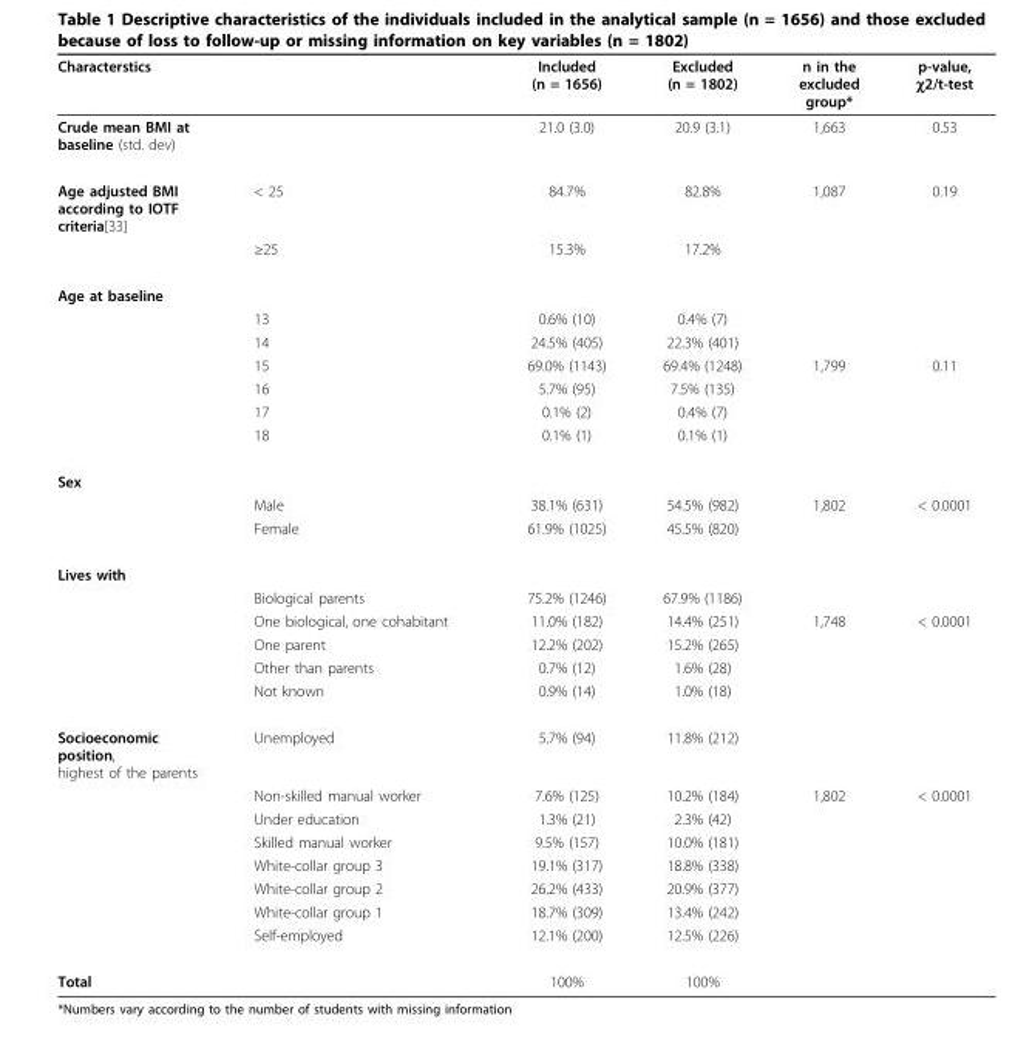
<table><thead><tr><td>Characterstics</td><td></td><td>Included (n = 1656)</td><td>Excluded (n = 1802)</td><td>n in the excluded group*</td><td>p-value, χ2/t-test</td></tr></thead><tbody><tr><td>Crude mean BMI at baseline (std. dev)</td><td></td><td>21.0 (3.0)</td><td>20.9 (3.1)</td><td>1,663</td><td>0.53</td></tr><tr><td rowspan="2">Age adjusted BMI according to IOTF criteria[33]</td><td>&lt; 25</td><td>84.7%</td><td>82.8%</td><td>1,087</td><td>0.19</td></tr><tr><td>≥25</td><td>15.3%</td><td>17.2%</td><td></td><td></td></tr><tr><td colspan="6">Age at baseline</td></tr><tr><td></td><td>13</td><td>0.6% (10)</td><td>0.4% (7)</td><td></td><td></td></tr><tr><td></td><td>14</td><td>24.5% (405)</td><td>22.3% (401)</td><td></td><td></td></tr><tr><td></td><td>15</td><td>69.0% (1143)</td><td>69.4% (1248)</td><td>1,799</td><td>0.11</td></tr><tr><td></td><td>16</td><td>5.7% (95)</td><td>7.5% (135)</td><td></td><td></td></tr><tr><td></td><td>17</td><td>0.1% (2)</td><td>0.4% (7)</td><td></td><td></td></tr><tr><td></td><td>18</td><td>0.1% (1)</td><td>0.1% (1)</td><td></td><td></td></tr><tr><td colspan="6">Sex</td></tr><tr><td></td><td>Male</td><td>38.1% (631)</td><td>54.5% (982)</td><td>1,802</td><td>&lt; 0.0001</td></tr><tr><td></td><td>Female</td><td>61.9% (1025)</td><td>45.5% (820)</td><td></td><td></td></tr><tr><td colspan="6">Lives with</td></tr><tr><td></td><td>Biological parents</td><td>75.2% (1246)</td><td>67.9% (1186)</td><td></td><td></td></tr><tr><td></td><td>One biological, one cohabitant</td><td>11.0% (182)</td><td>14.4% (251)</td><td>1,748</td><td>&lt; 0.0001</td></tr><tr><td></td><td>One parent</td><td>12.2% (202)</td><td>15.2% (265)</td><td></td><td></td></tr><tr><td></td><td>Other than parents</td><td>0.7% (12)</td><td>1.6% (28)</td><td></td><td></td></tr><tr><td></td><td>Not known</td><td>0.9% (14)</td><td>1.0% (18)</td><td></td><td></td></tr><tr><td rowspan="8">Socioeconomic position, highest of the parents</td><td>Unemployed</td><td>5.7% (94)</td><td>11.8% (212)</td><td></td><td></td></tr><tr><td>Non-skilled manual worker</td><td>7.6% (125)</td><td>10.2% (184)</td><td>1,802</td><td>&lt; 0.0001</td></tr><tr><td>Under education</td><td>1.3% (21)</td><td>2.3% (42)</td><td></td><td></td></tr><tr><td>Skilled manual worker</td><td>9.5% (157)</td><td>10.0% (181)</td><td></td><td></td></tr><tr><td>White-collar group 3</td><td>19.1% (317)</td><td>18.8% (338)</td><td></td><td></td></tr><tr><td>White-collar group 2</td><td>26.2% (433)</td><td>20.9% (377)</td><td></td><td></td></tr><tr><td>White-collar group 1</td><td>18.7% (309)</td><td>13.4% (242)</td><td></td><td></td></tr><tr><td>Self-employed</td><td>12.1% (200)</td><td>12.5% (226)</td><td></td><td></td></tr><tr><td>Total</td><td></td><td>100%</td><td>100%</td><td></td><td></td></tr></tbody></table>